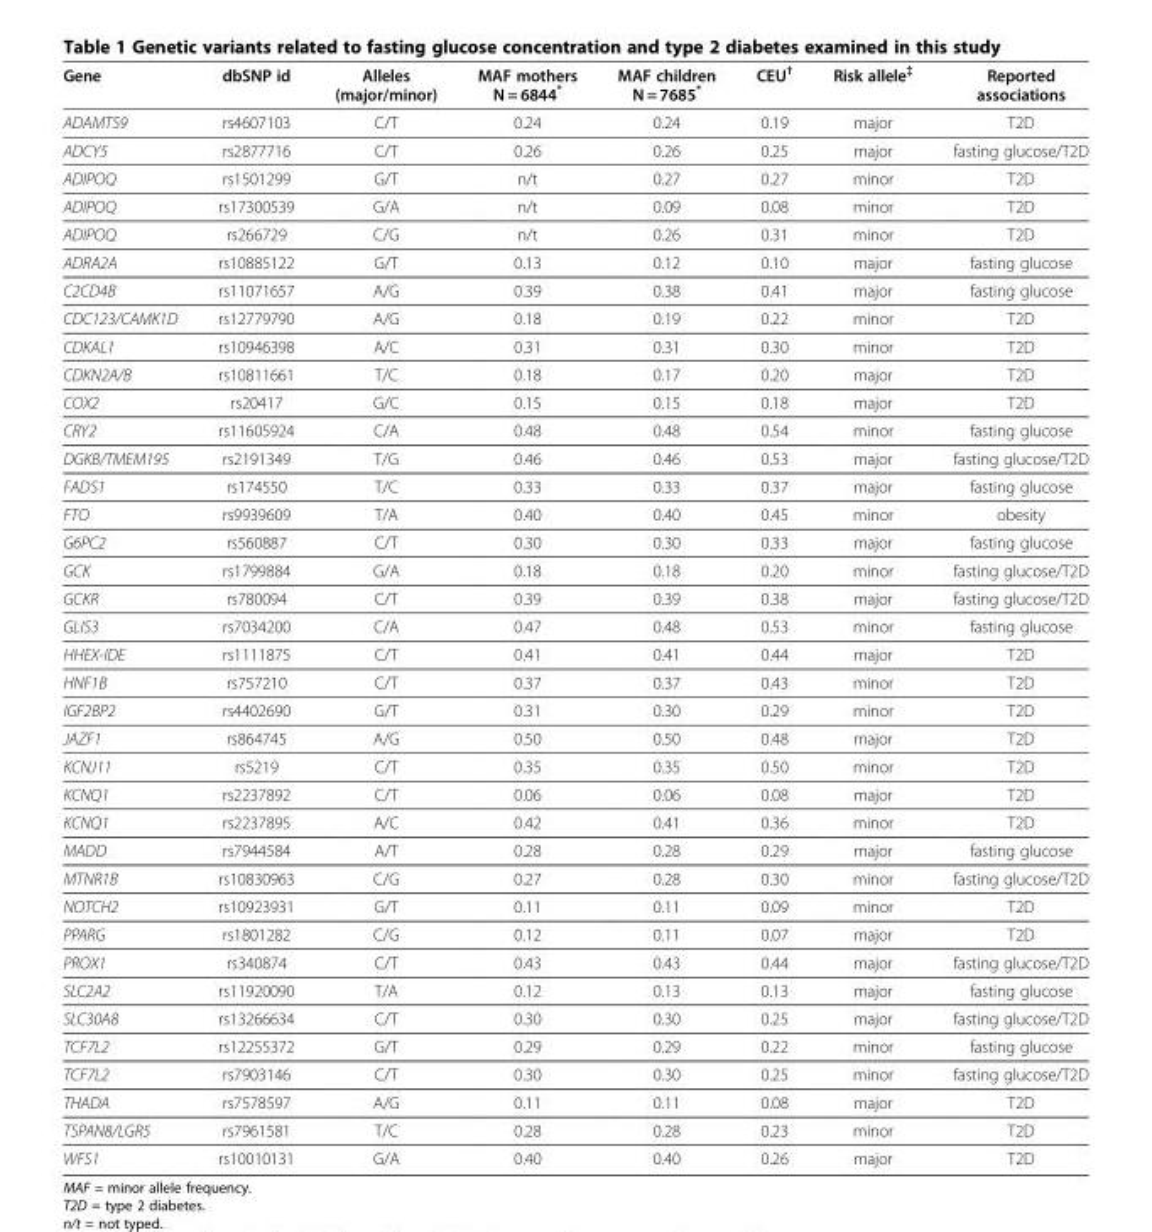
<table><thead><tr><td>Gene</td><td>dbSNP id</td><td>Alleles (major/minor)</td><td>MAF mothers N = 6844*</td><td>MAF children N = 7685*</td><td>CEU<sup>†</sup></td><td>Risk allele{{</td><td>Reported associations</td></tr></thead><tbody><tr><td>ADAMTS9</td><td>rs4607103</td><td>C/T</td><td>0.24</td><td>0.24</td><td>0.19</td><td>major</td><td>T2D</td></tr><tr><td>ADCY5</td><td>rs2877716</td><td>C/T</td><td>0.26</td><td>0.26</td><td>0.25</td><td>major</td><td>fasting glucose/T2D</td></tr><tr><td>ADIPOQ</td><td>rs1501299</td><td>G/T</td><td>n/t</td><td>0.27</td><td>0.27</td><td>minor</td><td>T2D</td></tr><tr><td>ADIPOQ</td><td>rs17300539</td><td>G/A</td><td>n/t</td><td>0.09</td><td>0.08</td><td>minor</td><td>T2D</td></tr><tr><td>ADIPOQ</td><td>rs266729</td><td>C/G</td><td>n/t</td><td>0.26</td><td>0.31</td><td>minor</td><td>T2D</td></tr><tr><td>ADRA2A</td><td>rs10885122</td><td>G/T</td><td>0.13</td><td>0.12</td><td>0.10</td><td>major</td><td>fasting glucose</td></tr><tr><td>C2CD4B</td><td>rs11071657</td><td>A/G</td><td>0.39</td><td>0.38</td><td>0.41</td><td>major</td><td>fasting glucose</td></tr><tr><td>CDC123/CAMK1D</td><td>rs12779790</td><td>A/G</td><td>0.18</td><td>0.19</td><td>0.22</td><td>minor</td><td>T2D</td></tr><tr><td>CDKAL1</td><td>rs10946398</td><td>A/C</td><td>0.31</td><td>0.31</td><td>0.30</td><td>minor</td><td>T2D</td></tr><tr><td>CDKN2A/B</td><td>rs10811661</td><td>T/C</td><td>0.18</td><td>0.17</td><td>0.20</td><td>major</td><td>T2D</td></tr><tr><td>COX2</td><td>rs20417</td><td>G/C</td><td>0.15</td><td>0.15</td><td>0.18</td><td>major</td><td>T2D</td></tr><tr><td>CRY2</td><td>rs11605924</td><td>C/A</td><td>0.48</td><td>0.48</td><td>0.54</td><td>minor</td><td>fasting glucose</td></tr><tr><td>DGKB/TMEM195</td><td>rs2191349</td><td>T/G</td><td>0.46</td><td>0.46</td><td>0.53</td><td>major</td><td>fasting glucose/T2D</td></tr><tr><td>FADS1</td><td>rs174550</td><td>T/C</td><td>0.33</td><td>0.33</td><td>0.37</td><td>major</td><td>fasting glucose</td></tr><tr><td>FTO</td><td>rs9939609</td><td>T/A</td><td>0.40</td><td>0.40</td><td>0.45</td><td>minor</td><td>obesity</td></tr><tr><td>G6PC2</td><td>rs560887</td><td>C/T</td><td>0.30</td><td>0.30</td><td>0.33</td><td>major</td><td>fasting glucose</td></tr><tr><td>GCK</td><td>rs1799884</td><td>G/A</td><td>0.18</td><td>0.18</td><td>0.20</td><td>minor</td><td>fasting glucose/T2D</td></tr><tr><td>GCKR</td><td>rs780094</td><td>C/T</td><td>0.39</td><td>0.39</td><td>0.38</td><td>major</td><td>fasting glucose/T2D</td></tr><tr><td>GLIS3</td><td>rs7034200</td><td>C/A</td><td>0.47</td><td>0.48</td><td>0.53</td><td>minor</td><td>fasting glucose</td></tr><tr><td>HHEX-IDE</td><td>rs1111875</td><td>C/T</td><td>0.41</td><td>0.41</td><td>0.44</td><td>major</td><td>T2D</td></tr><tr><td>HNF1B</td><td>rs757210</td><td>C/T</td><td>0.37</td><td>0.37</td><td>0.43</td><td>minor</td><td>T2D</td></tr><tr><td>IGF2BP2</td><td>rs4402690</td><td>G/T</td><td>0.31</td><td>0.30</td><td>0.29</td><td>minor</td><td>T2D</td></tr><tr><td>JAZF1</td><td>rs864745</td><td>A/G</td><td>0.50</td><td>0.50</td><td>0.48</td><td>major</td><td>T2D</td></tr><tr><td>KCNJ11</td><td>rs5219</td><td>C/T</td><td>0.35</td><td>0.35</td><td>0.50</td><td>minor</td><td>T2D</td></tr><tr><td>KCNQ1</td><td>rs2237892</td><td>C/T</td><td>0.06</td><td>0.06</td><td>0.08</td><td>major</td><td>T2D</td></tr><tr><td>KCNQ1</td><td>rs2237895</td><td>A/C</td><td>0.42</td><td>0.41</td><td>0.36</td><td>minor</td><td>T2D</td></tr><tr><td>MADD</td><td>rs7944584</td><td>A/T</td><td>0.28</td><td>0.28</td><td>0.29</td><td>major</td><td>fasting glucose</td></tr><tr><td>MTNR1B</td><td>rs10830963</td><td>C/G</td><td>0.27</td><td>0.28</td><td>0.30</td><td>minor</td><td>fasting glucose/T2D</td></tr><tr><td>NOTCH2</td><td>rs10923931</td><td>G/T</td><td>0.11</td><td>0.11</td><td>0.09</td><td>minor</td><td>T2D</td></tr><tr><td>PPARG</td><td>rs1801282</td><td>C/G</td><td>0.12</td><td>0.11</td><td>0.07</td><td>major</td><td>T2D</td></tr><tr><td>PROX1</td><td>rs340874</td><td>C/T</td><td>0.43</td><td>0.43</td><td>0.44</td><td>major</td><td>fasting glucose/T2D</td></tr><tr><td>SLC2A2</td><td>rs11920090</td><td>T/A</td><td>0.12</td><td>0.13</td><td>0.13</td><td>major</td><td>fasting glucose</td></tr><tr><td>SLC30A8</td><td>rs13266634</td><td>C/T</td><td>0.30</td><td>0.30</td><td>0.25</td><td>major</td><td>fasting glucose/T2D</td></tr><tr><td>TCF7L2</td><td>rs12255372</td><td>G/T</td><td>0.29</td><td>0.29</td><td>0.22</td><td>minor</td><td>fasting glucose</td></tr><tr><td>TCF7L2</td><td>rs7903146</td><td>C/T</td><td>0.30</td><td>0.30</td><td>0.25</td><td>minor</td><td>fasting glucose/T2D</td></tr><tr><td>THADA</td><td>rs7578597</td><td>A/G</td><td>0.11</td><td>0.11</td><td>0.08</td><td>major</td><td>T2D</td></tr><tr><td>TSPAN8/LGR5</td><td>rs7961581</td><td>T/C</td><td>0.28</td><td>0.28</td><td>0.23</td><td>minor</td><td>T2D</td></tr><tr><td>WFS1</td><td>rs10010131</td><td>G/A</td><td>0.40</td><td>0.40</td><td>0.26</td><td>major</td><td>T2D</td></tr></tbody></table>